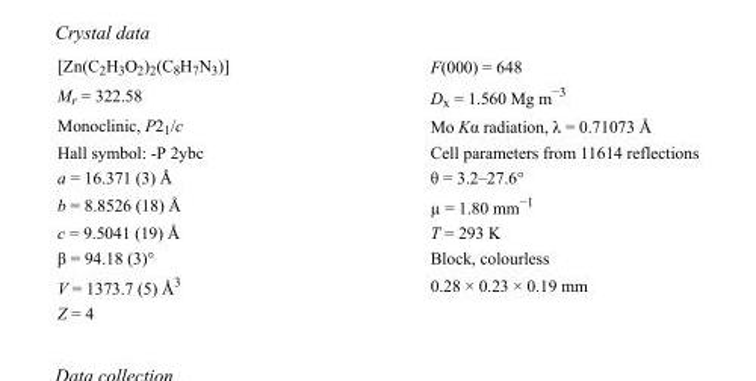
<table><tbody><tr><td>[Zn(C<sub>2</sub>H<sub>3</sub>O<sub>2</sub>)<sub>2</sub>(C<sub>8</sub>H<sub>7</sub>N<sub>3</sub>)]</td><td>F(000) = 648</td></tr><tr><td>M<sub>r</sub> = 322.58</td><td>D<sub>x</sub> = 1.560 Mg m<sup>−3</sup></td></tr><tr><td>Monoclinic, P2<sub>1</sub>/c</td><td>Mo Kα radiation, λ = 0.71073 Å</td></tr><tr><td>Hall symbol: -P 2ybc</td><td>Cell parameters from 11614 reflections</td></tr><tr><td>a = 16.371 (3) Å</td><td>θ = 3.2–27.6°</td></tr><tr><td>b = 8.8526 (18) Å</td><td>µ = 1.80 mm<sup>−1</sup></td></tr><tr><td>c = 9.5041 (19) Å</td><td>T = 293 K</td></tr><tr><td>β = 94.18 (3)°</td><td>Block, colourless</td></tr><tr><td>V = 1373.7 (5) Å<sup>3</sup></td><td>0.28 × 0.23 × 0.19 mm</td></tr><tr><td>Z = 4</td><td></td></tr></tbody></table>